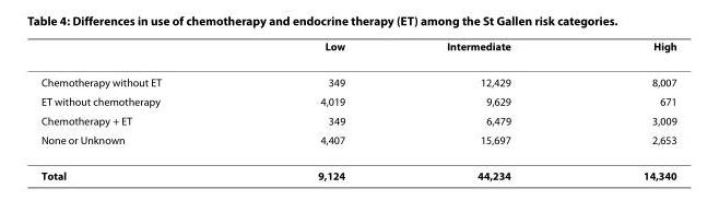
<table><thead><tr><td></td><td>Low</td><td>Intermediate</td><td>High</td></tr></thead><tbody><tr><td>Chemotherapy without ET</td><td>349</td><td>12,429</td><td>8,007</td></tr><tr><td>ET without chemotherapy</td><td>4,019</td><td>9,629</td><td>671</td></tr><tr><td>Chemotherapy + ET</td><td>349</td><td>6,479</td><td>3,009</td></tr><tr><td>None or Unknown</td><td>4,407</td><td>15,697</td><td>2,653</td></tr><tr><td>Total</td><td>9,124</td><td>44,234</td><td>14,340</td></tr></tbody></table>